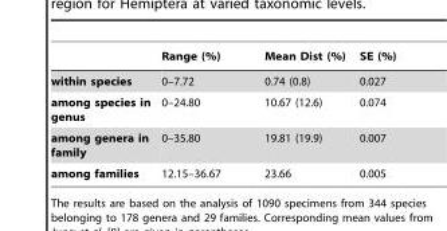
<table><thead><tr><td></td><td>Range (%)</td><td>Mean Dist (%)</td><td>SE (%)</td></tr></thead><tbody><tr><td>within species</td><td>0–7.72</td><td>0.74 (0.8)</td><td>0.027</td></tr><tr><td>among species in genus</td><td>0–24.80</td><td>10.67 (12.6)</td><td>0.074</td></tr><tr><td>among genera in family</td><td>0–35.80</td><td>19.81 (19.9)</td><td>0.007</td></tr><tr><td>among families</td><td>12.15–36.67</td><td>23.66</td><td>0.005</td></tr></tbody></table>